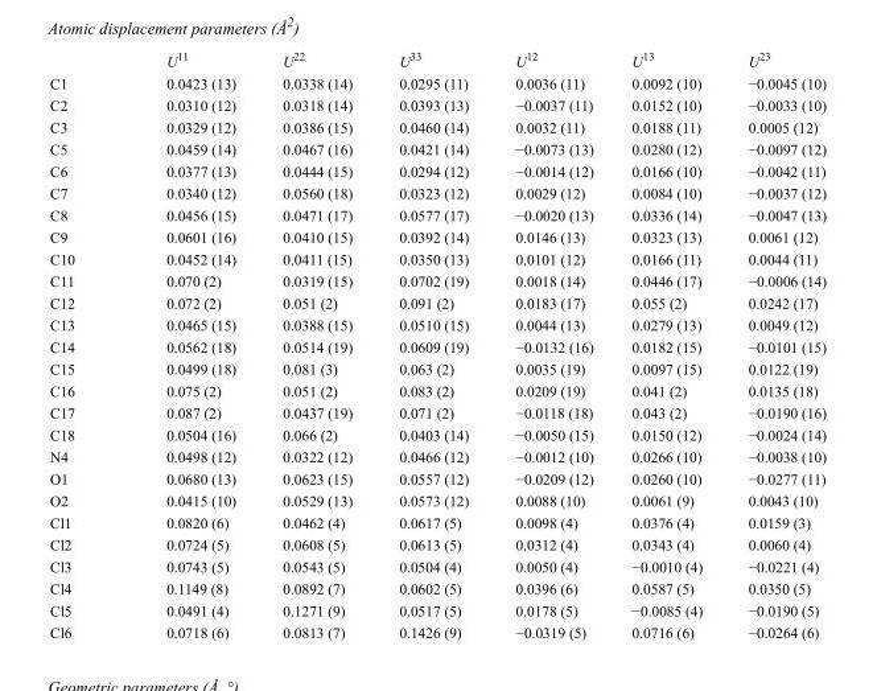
<table><thead><tr><td></td><td>U<sup>11</sup></td><td>U<sup>22</sup></td><td>U<sup>33</sup></td><td>U<sup>12</sup></td><td>U<sup>13</sup></td><td>U<sup>23</sup></td></tr></thead><tbody><tr><td>C1</td><td>0.0423 (13)</td><td>0.0338 (14)</td><td>0.0295 (11)</td><td>0.0036 (11)</td><td>0.0092 (10)</td><td>−0.0045 (10)</td></tr><tr><td>C2</td><td>0.0310 (12)</td><td>0.0318 (14)</td><td>0.0393 (13)</td><td>−0.0037 (11)</td><td>0.0152 (10)</td><td>−0.0033 (10)</td></tr><tr><td>C3</td><td>0.0329 (12)</td><td>0.0386 (15)</td><td>0.0460 (14)</td><td>0.0032 (11)</td><td>0.0188 (11)</td><td>0.0005 (12)</td></tr><tr><td>C5</td><td>0.0459 (14)</td><td>0.0467 (16)</td><td>0.0421 (14)</td><td>−0.0073 (13)</td><td>0.0280 (12)</td><td>−0.0097 (12)</td></tr><tr><td>C6</td><td>0.0377 (13)</td><td>0.0444 (15)</td><td>0.0294 (12)</td><td>−0.0014 (12)</td><td>0.0166 (10)</td><td>−0.0042 (11)</td></tr><tr><td>C7</td><td>0.0340 (12)</td><td>0.0560 (18)</td><td>0.0323 (12)</td><td>0.0029 (12)</td><td>0.0084 (10)</td><td>−0.0037 (12)</td></tr><tr><td>C8</td><td>0.0456 (15)</td><td>0.0471 (17)</td><td>0.0577 (17)</td><td>−0.0020 (13)</td><td>0.0336 (14)</td><td>−0.0047 (13)</td></tr><tr><td>C9</td><td>0.0601 (16)</td><td>0.0410 (15)</td><td>0.0392 (14)</td><td>0.0146 (13)</td><td>0.0323 (13)</td><td>0.0061 (12)</td></tr><tr><td>C10</td><td>0.0452 (14)</td><td>0.0411 (15)</td><td>0.0350 (13)</td><td>0.0101 (12)</td><td>0.0166 (11)</td><td>0.0044 (11)</td></tr><tr><td>C11</td><td>0.070 (2)</td><td>0.0319 (15)</td><td>0.0702 (19)</td><td>0.0018 (14)</td><td>0.0446 (17)</td><td>−0.0006 (14)</td></tr><tr><td>C12</td><td>0.072 (2)</td><td>0.051 (2)</td><td>0.091 (2)</td><td>0.0183 (17)</td><td>0.055 (2)</td><td>0.0242 (17)</td></tr><tr><td>C13</td><td>0.0465 (15)</td><td>0.0388 (15)</td><td>0.0510 (15)</td><td>0.0044 (13)</td><td>0.0279 (13)</td><td>0.0049 (12)</td></tr><tr><td>C14</td><td>0.0562 (18)</td><td>0.0514 (19)</td><td>0.0609 (19)</td><td>−0.0132 (16)</td><td>0.0182 (15)</td><td>−0.0101 (15)</td></tr><tr><td>C15</td><td>0.0499 (18)</td><td>0.081 (3)</td><td>0.063 (2)</td><td>0.0035 (19)</td><td>0.0097 (15)</td><td>0.0122 (19)</td></tr><tr><td>C16</td><td>0.075 (2)</td><td>0.051 (2)</td><td>0.083 (2)</td><td>0.0209 (19)</td><td>0.041 (2)</td><td>0.0135 (18)</td></tr><tr><td>C17</td><td>0.087 (2)</td><td>0.0437 (19)</td><td>0.071 (2)</td><td>−0.0118 (18)</td><td>0.043 (2)</td><td>−0.0190 (16)</td></tr><tr><td>C18</td><td>0.0504 (16)</td><td>0.066 (2)</td><td>0.0403 (14)</td><td>−0.0050 (15)</td><td>0.0150 (12)</td><td>−0.0024 (14)</td></tr><tr><td>N4</td><td>0.0498 (12)</td><td>0.0322 (12)</td><td>0.0466 (12)</td><td>−0.0012 (10)</td><td>0.0266 (10)</td><td>−0.0038 (10)</td></tr><tr><td>O1</td><td>0.0680 (13)</td><td>0.0623 (15)</td><td>0.0557 (12)</td><td>−0.0209 (12)</td><td>0.0260 (10)</td><td>−0.0277 (11)</td></tr><tr><td>O2</td><td>0.0415 (10)</td><td>0.0529 (13)</td><td>0.0573 (12)</td><td>0.0088 (10)</td><td>0.0061 (9)</td><td>0.0043 (10)</td></tr><tr><td>Cl1</td><td>0.0820 (6)</td><td>0.0462 (4)</td><td>0.0617 (5)</td><td>0.0098 (4)</td><td>0.0376 (4)</td><td>0.0159 (3)</td></tr><tr><td>Cl2</td><td>0.0724 (5)</td><td>0.0608 (5)</td><td>0.0613 (5)</td><td>0.0312 (4)</td><td>0.0343 (4)</td><td>0.0060 (4)</td></tr><tr><td>Cl3</td><td>0.0743 (5)</td><td>0.0543 (5)</td><td>0.0504 (4)</td><td>0.0050 (4)</td><td>−0.0010 (4)</td><td>−0.0221 (4)</td></tr><tr><td>Cl4</td><td>0.1149 (8)</td><td>0.0892 (7)</td><td>0.0602 (5)</td><td>0.0396 (6)</td><td>0.0587 (5)</td><td>0.0350 (5)</td></tr><tr><td>Cl5</td><td>0.0491 (4)</td><td>0.1271 (9)</td><td>0.0517 (5)</td><td>0.0178 (5)</td><td>−0.0085 (4)</td><td>−0.0190 (5)</td></tr><tr><td>Cl6</td><td>0.0718 (6)</td><td>0.0813 (7)</td><td>0.1426 (9)</td><td>−0.0319 (5)</td><td>0.0716 (6)</td><td>−0.0264 (6)</td></tr></tbody></table>